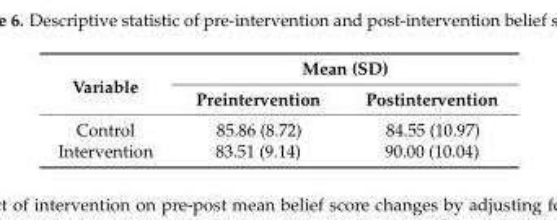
<table><thead><tr><td rowspan="2">Variable</td><td colspan="2">Mean (SD)</td></tr><tr><td>Preintervention</td><td>Postintervention</td></tr></thead><tbody><tr><td>Control Intervention</td><td>85.86 (8.72) 83.51 (9.14)</td><td>84.55 (10.97) 90.00 (10.04)</td></tr></tbody></table>